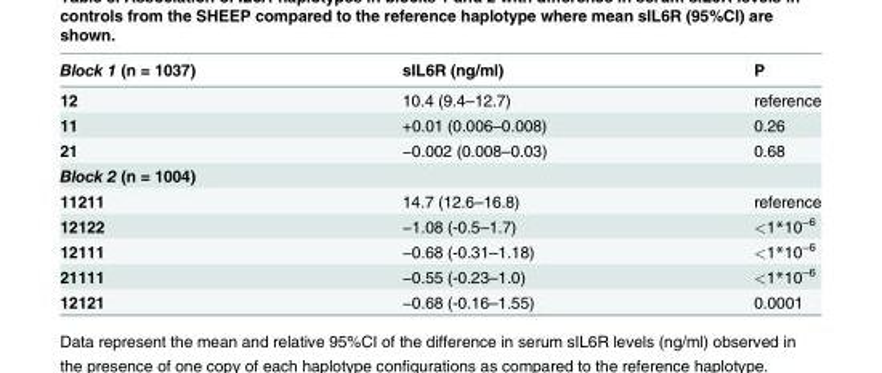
<table><thead><tr><td>Block 1 (n = 1037)</td><td>sIL6R (ng/ml)</td><td>P</td></tr></thead><tbody><tr><td>12</td><td>10.4 (9.4–12.7)</td><td>reference</td></tr><tr><td>11</td><td>+0.01 (0.006–0.008)</td><td>0.26</td></tr><tr><td>21</td><td>−0.002 (0.008–0.03)</td><td>0.68</td></tr><tr><td colspan="3">Block 2 (n = 1004)</td></tr><tr><td>11211</td><td>14.7 (12.6–16.8)</td><td>reference</td></tr><tr><td>12122</td><td>−1.08 (-0.5–1.7)</td><td>&lt;1*10<sup>−6</sup></td></tr><tr><td>12111</td><td>−0.68 (-0.31–1.18)</td><td>&lt;1*10<sup>−6</sup></td></tr><tr><td>21111</td><td>−0.55 (-0.23–1.0)</td><td>&lt;1*10<sup>−6</sup></td></tr><tr><td>12121</td><td>−0.68 (-0.16–1.55)</td><td>0.0001</td></tr></tbody></table>